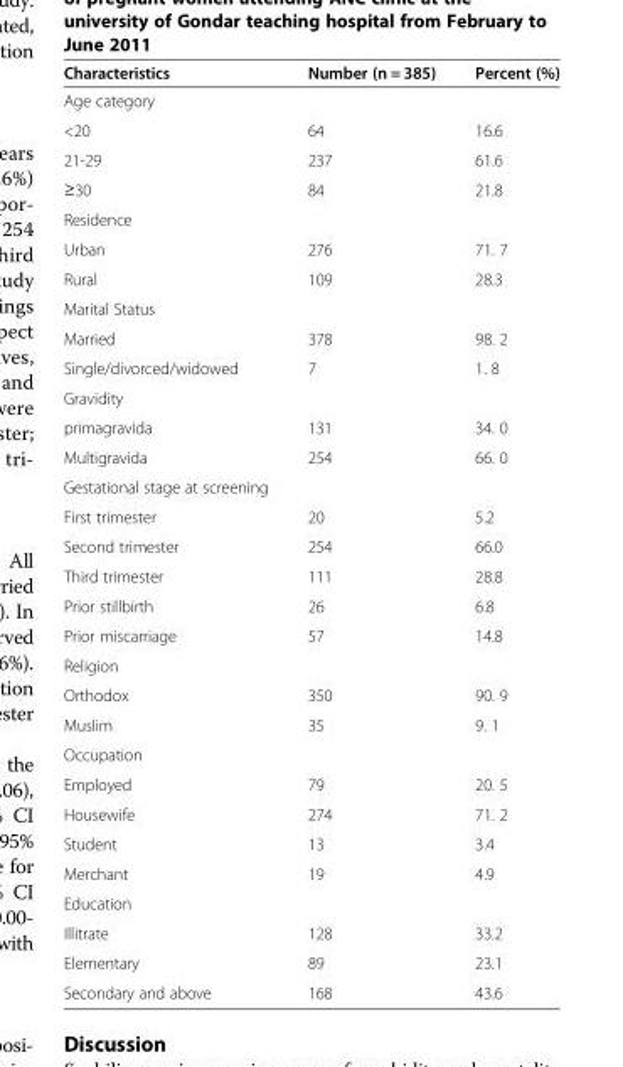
<table><thead><tr><td>Characteristics</td><td>Number (n = 385)</td><td>Percent (%)</td></tr></thead><tbody><tr><td colspan="3">Age category</td></tr><tr><td>&lt;20</td><td>64</td><td>16.6</td></tr><tr><td>21-29</td><td>237</td><td>61.6</td></tr><tr><td>≥30</td><td>84</td><td>21.8</td></tr><tr><td colspan="3">Residence</td></tr><tr><td>Urban</td><td>276</td><td>71. 7</td></tr><tr><td>Rural</td><td>109</td><td>28.3</td></tr><tr><td colspan="3">Marital Status</td></tr><tr><td>Married</td><td>378</td><td>98. 2</td></tr><tr><td>Single/divorced/widowed</td><td>7</td><td>1. 8</td></tr><tr><td colspan="3">Gravidity</td></tr><tr><td>primagravida</td><td>131</td><td>34. 0</td></tr><tr><td>Multigravida</td><td>254</td><td>66. 0</td></tr><tr><td colspan="3">Gestational stage at screening</td></tr><tr><td>First trimester</td><td>20</td><td>5.2</td></tr><tr><td>Second trimester</td><td>254</td><td>66.0</td></tr><tr><td>Third trimester</td><td>111</td><td>28.8</td></tr><tr><td>Prior stillbirth</td><td>26</td><td>6.8</td></tr><tr><td>Prior miscarriage</td><td>57</td><td>14.8</td></tr><tr><td colspan="3">Religion</td></tr><tr><td>Orthodox</td><td>350</td><td>90. 9</td></tr><tr><td>Muslim</td><td>35</td><td>9. 1</td></tr><tr><td colspan="3">Occupation</td></tr><tr><td>Employed</td><td>79</td><td>20. 5</td></tr><tr><td>Housewife</td><td>274</td><td>71. 2</td></tr><tr><td>Student</td><td>13</td><td>3.4</td></tr><tr><td>Merchant</td><td>19</td><td>4.9</td></tr><tr><td colspan="3">Education</td></tr><tr><td>Illitrate</td><td>128</td><td>33.2</td></tr><tr><td>Elementary</td><td>89</td><td>23.1</td></tr><tr><td>Secondary and above</td><td>168</td><td>43.6</td></tr></tbody></table>